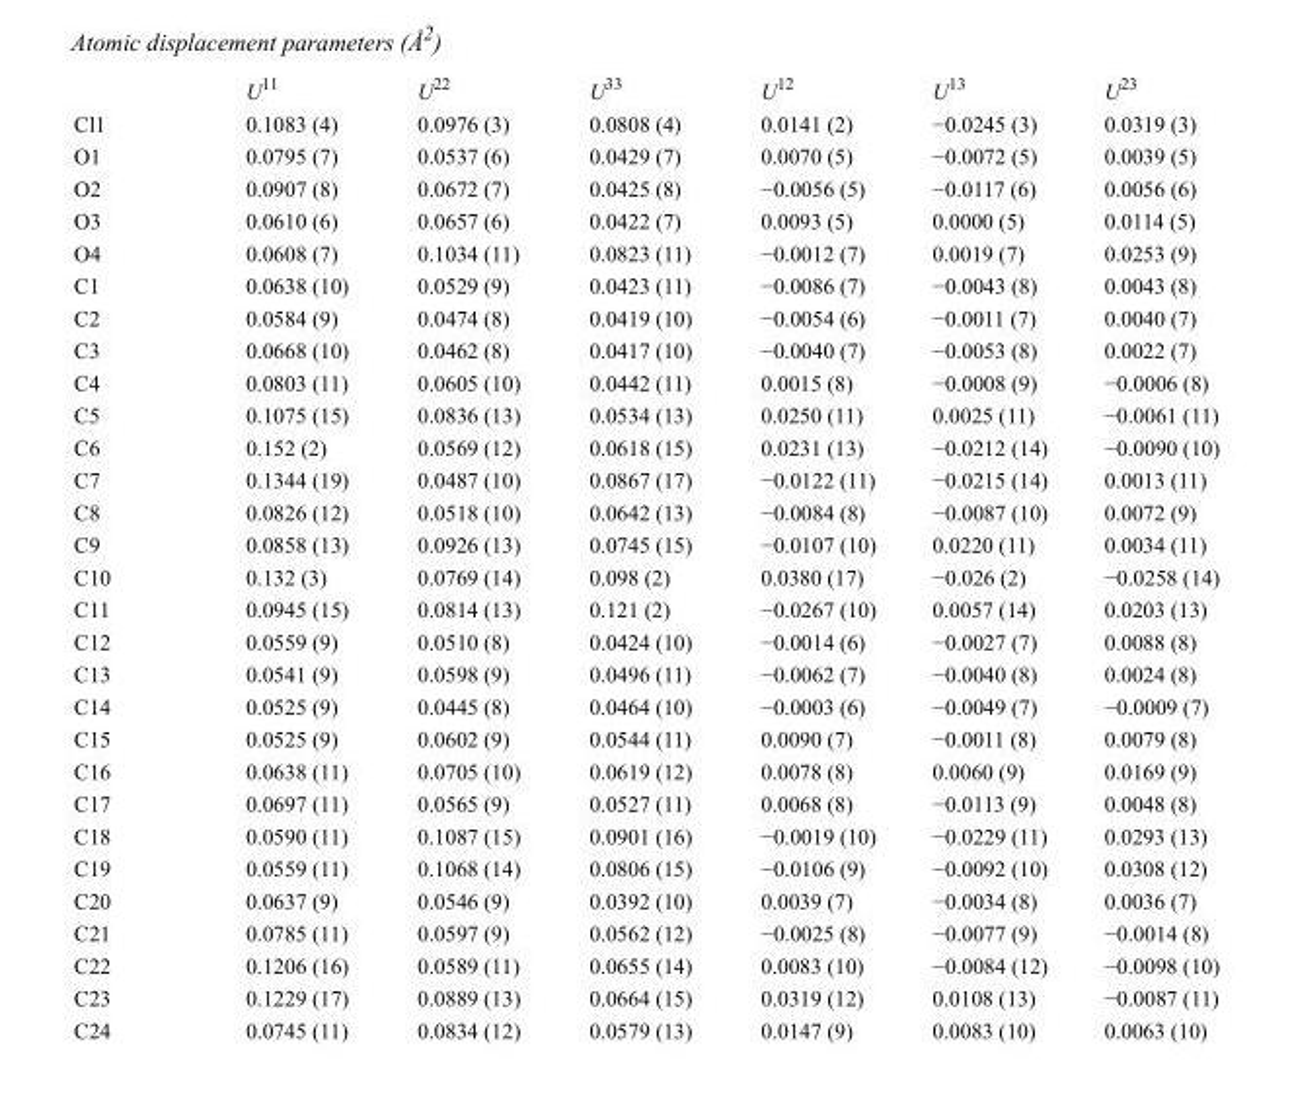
<table><thead><tr><td></td><td>U<sup>11</sup></td><td>U<sup>22</sup></td><td>U<sup>33</sup></td><td>U<sup>12</sup></td><td>U<sup>13</sup></td><td>U<sup>23</sup></td></tr></thead><tbody><tr><td>Cl1</td><td>0.1083 (4)</td><td>0.0976 (3)</td><td>0.0808 (4)</td><td>0.0141 (2)</td><td>−0.0245 (3)</td><td>0.0319 (3)</td></tr><tr><td>O1</td><td>0.0795 (7)</td><td>0.0537 (6)</td><td>0.0429 (7)</td><td>0.0070 (5)</td><td>−0.0072 (5)</td><td>0.0039 (5)</td></tr><tr><td>O2</td><td>0.0907 (8)</td><td>0.0672 (7)</td><td>0.0425 (8)</td><td>−0.0056 (5)</td><td>−0.0117 (6)</td><td>0.0056 (6)</td></tr><tr><td>O3</td><td>0.0610 (6)</td><td>0.0657 (6)</td><td>0.0422 (7)</td><td>0.0093 (5)</td><td>0.0000 (5)</td><td>0.0114 (5)</td></tr><tr><td>O4</td><td>0.0608 (7)</td><td>0.1034 (11)</td><td>0.0823 (11)</td><td>−0.0012 (7)</td><td>0.0019 (7)</td><td>0.0253 (9)</td></tr><tr><td>C1</td><td>0.0638 (10)</td><td>0.0529 (9)</td><td>0.0423 (11)</td><td>−0.0086 (7)</td><td>−0.0043 (8)</td><td>0.0043 (8)</td></tr><tr><td>C2</td><td>0.0584 (9)</td><td>0.0474 (8)</td><td>0.0419 (10)</td><td>−0.0054 (6)</td><td>−0.0011 (7)</td><td>0.0040 (7)</td></tr><tr><td>C3</td><td>0.0668 (10)</td><td>0.0462 (8)</td><td>0.0417 (10)</td><td>−0.0040 (7)</td><td>−0.0053 (8)</td><td>0.0022 (7)</td></tr><tr><td>C4</td><td>0.0803 (11)</td><td>0.0605 (10)</td><td>0.0442 (11)</td><td>0.0015 (8)</td><td>−0.0008 (9)</td><td>−0.0006 (8)</td></tr><tr><td>C5</td><td>0.1075 (15)</td><td>0.0836 (13)</td><td>0.0534 (13)</td><td>0.0250 (11)</td><td>0.0025 (11)</td><td>−0.0061 (11)</td></tr><tr><td>C6</td><td>0.152 (2)</td><td>0.0569 (12)</td><td>0.0618 (15)</td><td>0.0231 (13)</td><td>−0.0212 (14)</td><td>−0.0090 (10)</td></tr><tr><td>C7</td><td>0.1344 (19)</td><td>0.0487 (10)</td><td>0.0867 (17)</td><td>−0.0122 (11)</td><td>−0.0215 (14)</td><td>0.0013 (11)</td></tr><tr><td>C8</td><td>0.0826 (12)</td><td>0.0518 (10)</td><td>0.0642 (13)</td><td>−0.0084 (8)</td><td>−0.0087 (10)</td><td>0.0072 (9)</td></tr><tr><td>C9</td><td>0.0858 (13)</td><td>0.0926 (13)</td><td>0.0745 (15)</td><td>−0.0107 (10)</td><td>0.0220 (11)</td><td>0.0034 (11)</td></tr><tr><td>C10</td><td>0.132 (3)</td><td>0.0769 (14)</td><td>0.098 (2)</td><td>0.0380 (17)</td><td>−0.026 (2)</td><td>−0.0258 (14)</td></tr><tr><td>C11</td><td>0.0945 (15)</td><td>0.0814 (13)</td><td>0.121 (2)</td><td>−0.0267 (10)</td><td>0.0057 (14)</td><td>0.0203 (13)</td></tr><tr><td>C12</td><td>0.0559 (9)</td><td>0.0510 (8)</td><td>0.0424 (10)</td><td>−0.0014 (6)</td><td>−0.0027 (7)</td><td>0.0088 (8)</td></tr><tr><td>C13</td><td>0.0541 (9)</td><td>0.0598 (9)</td><td>0.0496 (11)</td><td>−0.0062 (7)</td><td>−0.0040 (8)</td><td>0.0024 (8)</td></tr><tr><td>C14</td><td>0.0525 (9)</td><td>0.0445 (8)</td><td>0.0464 (10)</td><td>−0.0003 (6)</td><td>−0.0049 (7)</td><td>−0.0009 (7)</td></tr><tr><td>C15</td><td>0.0525 (9)</td><td>0.0602 (9)</td><td>0.0544 (11)</td><td>0.0090 (7)</td><td>−0.0011 (8)</td><td>0.0079 (8)</td></tr><tr><td>C16</td><td>0.0638 (11)</td><td>0.0705 (10)</td><td>0.0619 (12)</td><td>0.0078 (8)</td><td>0.0060 (9)</td><td>0.0169 (9)</td></tr><tr><td>C17</td><td>0.0697 (11)</td><td>0.0565 (9)</td><td>0.0527 (11)</td><td>0.0068 (8)</td><td>−0.0113 (9)</td><td>0.0048 (8)</td></tr><tr><td>C18</td><td>0.0590 (11)</td><td>0.1087 (15)</td><td>0.0901 (16)</td><td>−0.0019 (10)</td><td>−0.0229 (11)</td><td>0.0293 (13)</td></tr><tr><td>C19</td><td>0.0559 (11)</td><td>0.1068 (14)</td><td>0.0806 (15)</td><td>−0.0106 (9)</td><td>−0.0092 (10)</td><td>0.0308 (12)</td></tr><tr><td>C20</td><td>0.0637 (9)</td><td>0.0546 (9)</td><td>0.0392 (10)</td><td>0.0039 (7)</td><td>−0.0034 (8)</td><td>0.0036 (7)</td></tr><tr><td>C21</td><td>0.0785 (11)</td><td>0.0597 (9)</td><td>0.0562 (12)</td><td>−0.0025 (8)</td><td>−0.0077 (9)</td><td>−0.0014 (8)</td></tr><tr><td>C22</td><td>0.1206 (16)</td><td>0.0589 (11)</td><td>0.0655 (14)</td><td>0.0083 (10)</td><td>−0.0084 (12)</td><td>−0.0098 (10)</td></tr><tr><td>C23</td><td>0.1229 (17)</td><td>0.0889 (13)</td><td>0.0664 (15)</td><td>0.0319 (12)</td><td>0.0108 (13)</td><td>−0.0087 (11)</td></tr><tr><td>C24</td><td>0.0745 (11)</td><td>0.0834 (12)</td><td>0.0579 (13)</td><td>0.0147 (9)</td><td>0.0083 (10)</td><td>0.0063 (10)</td></tr></tbody></table>